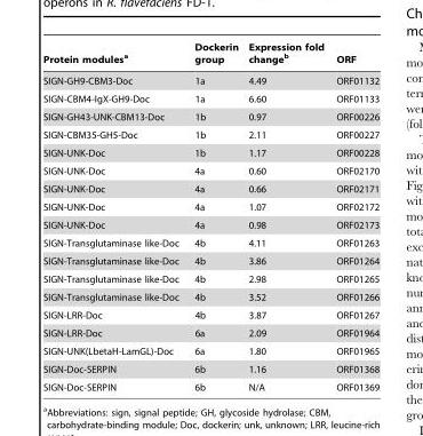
<table><thead><tr><td>Protein modules<sup>a</sup></td><td>Dockerin group</td><td>Expression fold change<sup>b</sup></td><td>ORF</td></tr></thead><tbody><tr><td>SIGN-GH9-CBM3-Doc</td><td>1a</td><td>4.49</td><td>ORF01132</td></tr><tr><td>SIGN-CBM4-IgX-GH9-Doc</td><td>1a</td><td>6.60</td><td>ORF01133</td></tr><tr><td>SIGN-GH43-UNK-CBM13-Doc</td><td>1b</td><td>0.97</td><td>ORF00226</td></tr><tr><td>SIGN-CBM35-GH5-Doc</td><td>1b</td><td>2.11</td><td>ORF00227</td></tr><tr><td>SIGN-UNK-Doc</td><td>1b</td><td>1.17</td><td>ORF00228</td></tr><tr><td>SIGN-UNK-Doc</td><td>4a</td><td>0.60</td><td>ORF02170</td></tr><tr><td>SIGN-UNK-Doc</td><td>4a</td><td>0.66</td><td>ORF02171</td></tr><tr><td>SIGN-UNK-Doc</td><td>4a</td><td>1.07</td><td>ORF02172</td></tr><tr><td>SIGN-UNK-Doc</td><td>4a</td><td>0.98</td><td>ORF02173</td></tr><tr><td>SIGN-Transglutaminase like-Doc</td><td>4b</td><td>4.11</td><td>ORF01263</td></tr><tr><td>SIGN-Transglutaminase like-Doc</td><td>4b</td><td>3.86</td><td>ORF01264</td></tr><tr><td>SIGN-Transglutaminase like-Doc</td><td>4b</td><td>2.98</td><td>ORF01265</td></tr><tr><td>SIGN-Transglutaminase like-Doc</td><td>4b</td><td>3.52</td><td>ORF01266</td></tr><tr><td>SIGN-LRR-Doc</td><td>4b</td><td>3.87</td><td>ORF01267</td></tr><tr><td>SIGN-LRR-Doc</td><td>6a</td><td>2.09</td><td>ORF01964</td></tr><tr><td>SIGN-UNK(LbetaH-LamGL)-Doc</td><td>6a</td><td>1.80</td><td>ORF01965</td></tr><tr><td>SIGN-Doc-SERPIN</td><td>6b</td><td>1.16</td><td>ORF01368</td></tr><tr><td>SIGN-Doc-SERPIN</td><td>6b</td><td>N/A</td><td>ORF01369</td></tr></tbody></table>